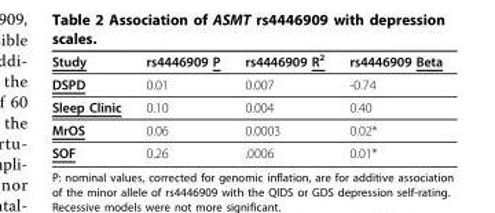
<table><thead><tr><td>Study</td><td>rs4446909 P</td><td>rs4446909 R<sup>2</sup></td><td>rs4446909 Beta</td></tr></thead><tbody><tr><td>DSPD</td><td>0.01</td><td>0.007</td><td>-0.74</td></tr><tr><td>Sleep Clinic</td><td>0.10</td><td>0.004</td><td>0.40</td></tr><tr><td>MrOS</td><td>0.06</td><td>0.0003</td><td>0.02*</td></tr><tr><td>SOF</td><td>0.26</td><td>.0006</td><td>0.01*</td></tr></tbody></table>